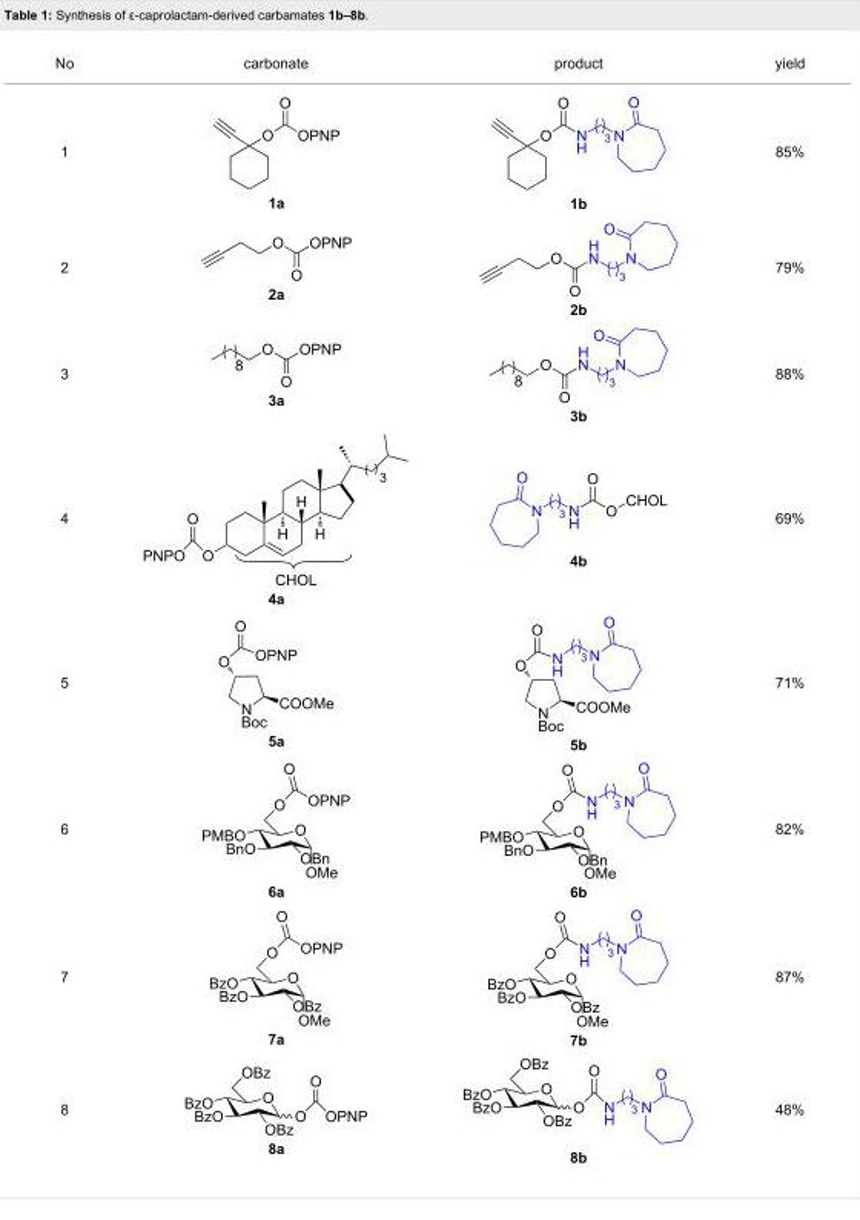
<table><tbody><tr><td>No</td><td>carbonate</td><td>product</td><td>yield</td></tr><tr><td>1</td><td>1a</td><td>1b</td><td>85%</td></tr><tr><td>2</td><td>2a</td><td>2b</td><td>79%</td></tr><tr><td>3</td><td>3a</td><td>3b</td><td>88%</td></tr><tr><td>4</td><td>4a</td><td>4b</td><td>69%</td></tr><tr><td>5</td><td>5a</td><td>5b</td><td>71%</td></tr><tr><td>6</td><td>6a</td><td>6b</td><td>82%</td></tr><tr><td>7</td><td>7a</td><td>7b</td><td>87%</td></tr><tr><td>8</td><td>8a</td><td>8b</td><td>48%</td></tr></tbody></table>